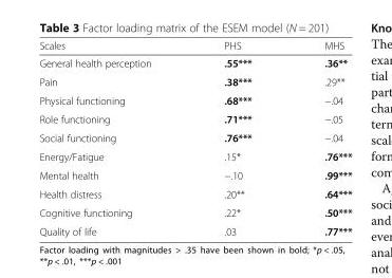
<table><thead><tr><td>Scales</td><td>PHS</td><td>MHS</td></tr></thead><tbody><tr><td>General health perception</td><td>.55***</td><td>.36**</td></tr><tr><td>Pain</td><td>.38***</td><td>.29**</td></tr><tr><td>Physical functioning</td><td>.68***</td><td>−.04</td></tr><tr><td>Role functioning</td><td>.71***</td><td>−.05</td></tr><tr><td>Social functioning</td><td>.76***</td><td>−.04</td></tr><tr><td>Energy/Fatigue</td><td>.15*</td><td>.76***</td></tr><tr><td>Mental health</td><td>−.10</td><td>.99***</td></tr><tr><td>Health distress</td><td>.20**</td><td>.64***</td></tr><tr><td>Cognitive functioning</td><td>.22*</td><td>.50***</td></tr><tr><td>Quality of life</td><td>.03</td><td>.77***</td></tr></tbody></table>